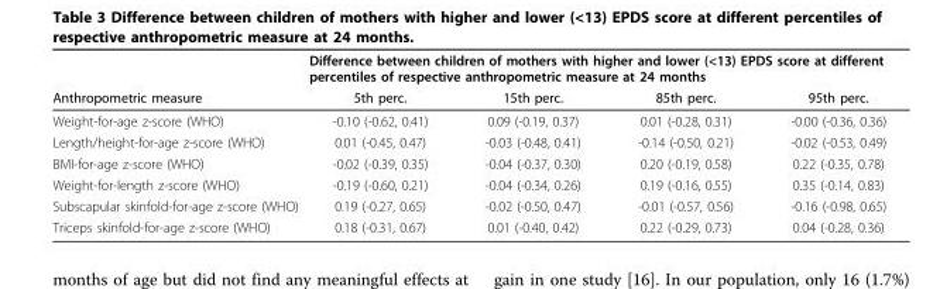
<table><thead><tr><td rowspan="2">Anthropometric measure</td><td colspan="4">Difference between children of mothers with higher and lower (&lt;13) EPDS score at different percentiles of respective anthropometric measure at 24 months</td></tr><tr><td>5th perc.</td><td>15th perc.</td><td>85th perc.</td><td>95th perc.</td></tr></thead><tbody><tr><td>Weight-for-age z-score (WHO)</td><td>-0.10 (-0.62, 0.41)</td><td>0.09 (-0.19, 0.37)</td><td>0.01 (-0.28, 0.31)</td><td>-0.00 (-0.36, 0.36)</td></tr><tr><td>Length/height-for-age z-score (WHO)</td><td>0.01 (-0.45, 0.47)</td><td>-0.03 (-0.48, 0.41)</td><td>-0.14 (-0.50, 0.21)</td><td>-0.02 (-0.53, 0.49)</td></tr><tr><td>BMI-for-age z-score (WHO)</td><td>-0.02 (-0.39, 0.35)</td><td>-0.04 (-0.37, 0.30)</td><td>0.20 (-0.19, 0.58)</td><td>0.22 (-0.35, 0.78)</td></tr><tr><td>Weight-for-length z-score (WHO)</td><td>-0.19 (-0.60, 0.21)</td><td>-0.04 (-0.34, 0.26)</td><td>0.19 (-0.16, 0.55)</td><td>0.35 (-0.14, 0.83)</td></tr><tr><td>Subscapular skinfold-for-age z-score (WHO)</td><td>0.19 (-0.27, 0.65)</td><td>-0.02 (-0.50, 0.47)</td><td>-0.01 (-0.57, 0.56)</td><td>-0.16 (-0.98, 0.65)</td></tr><tr><td>Triceps skinfold-for-age z-score (WHO)</td><td>0.18 (-0.31, 0.67)</td><td>0.01 (-0.40, 0.42)</td><td>0.22 (-0.29, 0.73)</td><td>0.04 (-0.28, 0.36)</td></tr></tbody></table>